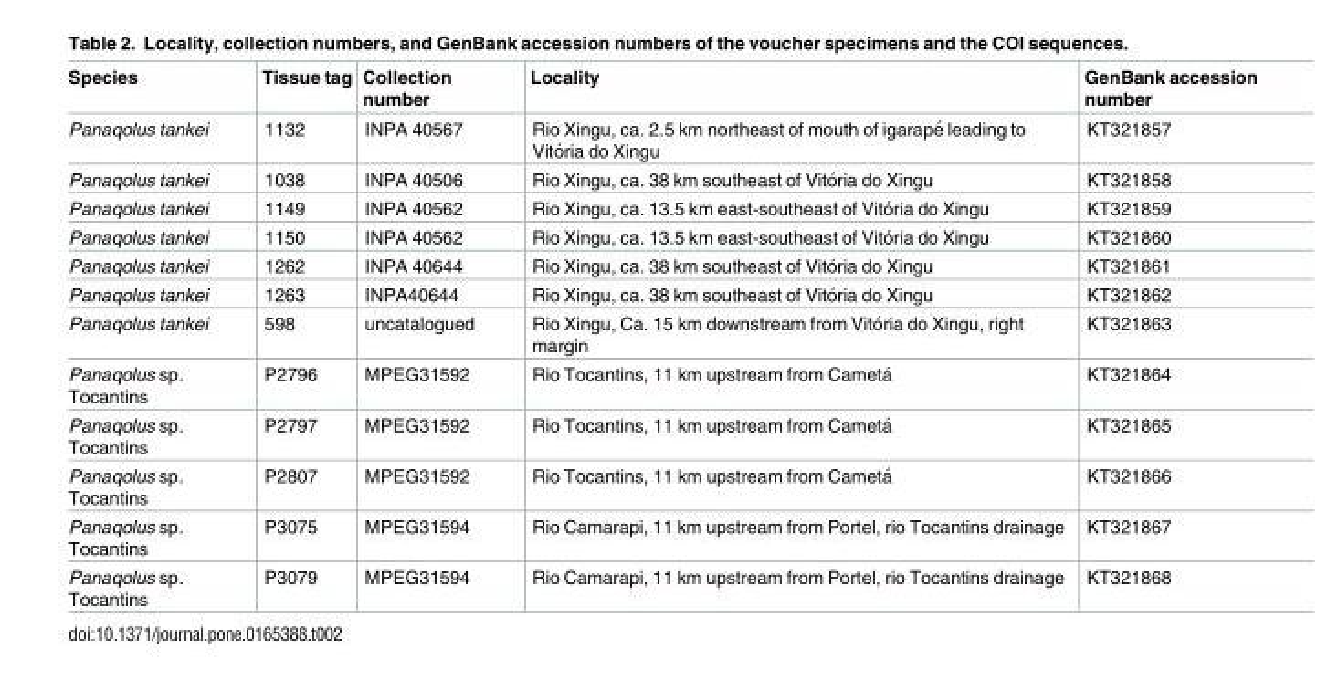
<table><thead><tr><td>Species</td><td>Tissue tag</td><td>Collection number</td><td>Locality</td><td>GenBank accession number</td></tr></thead><tbody><tr><td>Panaqolus tankei</td><td>1132</td><td>INPA 40567</td><td>Rio Xingu, ca. 2.5 km northeast of mouth of igarape´ leading to Vito´ria do Xingu</td><td>KT321857</td></tr><tr><td>Panaqolus tankei</td><td>1038</td><td>INPA 40506</td><td>Rio Xingu, ca. 38 km southeast of Vito´ria do Xingu</td><td>KT321858</td></tr><tr><td>Panaqolus tankei</td><td>1149</td><td>INPA 40562</td><td>Rio Xingu, ca. 13.5 km east-southeast of Vito´ria do Xingu</td><td>KT321859</td></tr><tr><td>Panaqolus tankei</td><td>1150</td><td>INPA 40562</td><td>Rio Xingu, ca. 13.5 km east-southeast of Vito´ria do Xingu</td><td>KT321860</td></tr><tr><td>Panaqolus tankei</td><td>1262</td><td>INPA 40644</td><td>Rio Xingu, ca. 38 km southeast of Vito´ria do Xingu</td><td>KT321861</td></tr><tr><td>Panaqolus tankei</td><td>1263</td><td>INPA40644</td><td>Rio Xingu, ca. 38 km southeast of Vito´ria do Xingu</td><td>KT321862</td></tr><tr><td>Panaqolus tankei</td><td>598</td><td>uncatalogued</td><td>Rio Xingu, Ca. 15 km downstream from Vito´ria do Xingu, right margin</td><td>KT321863</td></tr><tr><td>Panaqolus sp. Tocantins</td><td>P2796</td><td>MPEG31592</td><td>Rio Tocantins, 11 km upstream from Cameta´</td><td>KT321864</td></tr><tr><td>Panaqolus sp. Tocantins</td><td>P2797</td><td>MPEG31592</td><td>Rio Tocantins, 11 km upstream from Cameta´</td><td>KT321865</td></tr><tr><td>Panaqolus sp. Tocantins</td><td>P2807</td><td>MPEG31592</td><td>Rio Tocantins, 11 km upstream from Cameta´</td><td>KT321866</td></tr><tr><td>Panaqolus sp. Tocantins</td><td>P3075</td><td>MPEG31594</td><td>Rio Camarapi, 11 km upstream from Portel, rio Tocantins drainage</td><td>KT321867</td></tr><tr><td>Panaqolus sp. Tocantins</td><td>P3079</td><td>MPEG31594</td><td>Rio Camarapi, 11 km upstream from Portel, rio Tocantins drainage</td><td>KT321868</td></tr></tbody></table>